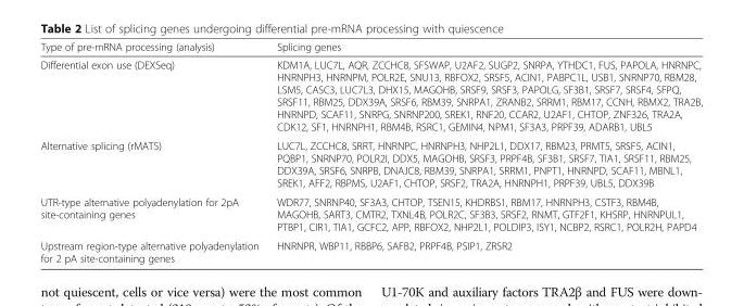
<table><thead><tr><td>Type of pre-mRNA processing (analysis)</td><td>Splicing genes</td></tr></thead><tbody><tr><td>Differential exon use (DEXSeq)</td><td>KDM1A, LUC7L, AQR, ZCCHC8, SFSWAP, U2AF2, SUGP2, SNRPA, YTHDC1, FUS, PAPOLA, HNRNPC, HNRNPH3, HNRNPM, POLR2E, SNU13, RBFOX2, SRSF5, ACIN1, PABPC1L, USB1, SNRNP70, RBM28, LSM5, CASC3, LUC7L3, DHX15, MAGOHB, SRSF9, SRSF3, PAPOLG, SF3B1, SRSF7, SRSF4, SFPQ, SRSF11, RBM25, DDX39A, SRSF6, RBM39, SNRPA1, ZRANB2, SRRM1, RBM17, CCNH, RBMX2, TRA2B, HNRNPD, SCAF11, SNRPG, SNRNP200, SREK1, RNF20, CCAR2, U2AF1, CHTOP, ZNF326, TRA2A, CDK12, SF1, HNRNPH1, RBM4B, RSRC1, GEMIN4, NPM1, SF3A3, PRPF39, ADARB1, UBL5</td></tr><tr><td>Alternative splicing (rMATS)</td><td>LUC7L, ZCCHC8, SRRT, HNRNPC, HNRNPH3, NHP2L1, DDX17, RBM23, PRMT5, SRSF5, ACIN1, PQBP1, SNRNP70, POLR2I, DDX5, MAGOHB, SRSF3, PRPF4B, SF3B1, SRSF7, TIA1, SRSF11, RBM25, DDX39A, SRSF6, SNRPB, DNAJC8, RBM39, SNRPA1, SRRM1, PNPT1, HNRNPD, SCAF11, MBNL1, SREK1, AFF2, RBPMS, U2AF1, CHTOP, SRSF2, TRA2A, HNRNPH1, PRPF39, UBL5, DDX39B</td></tr><tr><td>UTR-type alternative polyadenylation for 2pA site-containing genes</td><td>WDR77, SNRNP40, SF3A3, CHTOP, TSEN15, KHDRBS1, RBM17, HNRNPH3, CSTF3, RBM4B, MAGOHB, SART3, CMTR2, TXNL4B, POLR2C, SF3B3, SRSF2, RNMT, GTF2F1, KHSRP, HNRNPUL1, PTBP1, CIR1, TIA1, GCFC2, APP, RBFOX2, NHP2L1, POLDIP3, ISY1, NCBP2, RSRC1, POLR2H, PAPD4</td></tr><tr><td>Upstream region-type alternative polyadenylation for 2 pA site-containing genes</td><td>HNRNPR, WBP11, RBBP6, SAFB2, PRPF4B, PSIP1, ZRSR2</td></tr></tbody></table>